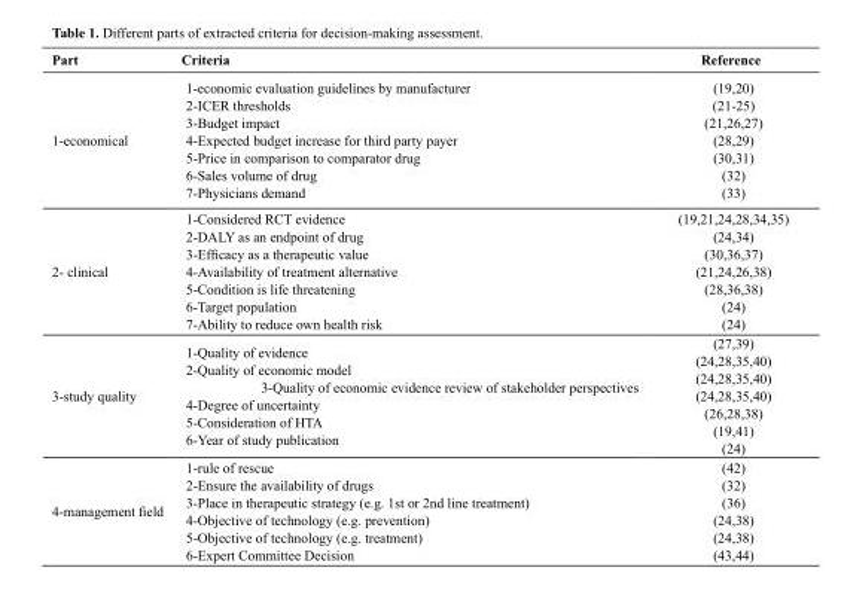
<table><thead><tr><td>Part</td><td>Criteria</td><td>Reference</td></tr></thead><tbody><tr><td>1-economical</td><td>1-economic evaluation guidelines by manufacturer 2-ICER thresholds 3-Budget impact 4-Expected budget increase for third party payer 5-Price in comparison to comparator drug 6-Sales volume of drug 7-Physicians demand</td><td>(19,20) (21-25) (21,26,27) (28,29) (30,31) (32) (33)</td></tr><tr><td>2- clinical</td><td>1-Considered RCT evidence 2-DALY as an endpoint of drug 3-Efficacy as a therapeutic value 4-Availability of treatment alternative 5-Condition is life threatening 6-Target population 7-Ability to reduce own health risk</td><td>(19,21,24,28,34,35) (24,34) (30,36,37) (21,24,26,38) (28,36,38) (24) (24)</td></tr><tr><td>3-study quality</td><td>1-Quality of evidence 2-Quality of economic model 3-Quality of economic evidence review of stakeholder perspectives 4-Degree of uncertainty 5-Consideration of HTA 6-Year of study publication</td><td>(27,39) (24,28,35,40) (24,28,35,40) (24,28,35,40) (26,28,38) (19,41) (24)</td></tr><tr><td>4-management field</td><td>1-rule of rescue 2-Ensure the availability of drugs 3-Place in therapeutic strategy (e.g. 1st or 2nd line treatment) 4-Objective of technology (e.g. prevention) 5-Objective of technology (e.g. treatment) 6-Expert Committee Decision</td><td>(42) (32) (36) (24,38) (24,38) (43,44)</td></tr></tbody></table>